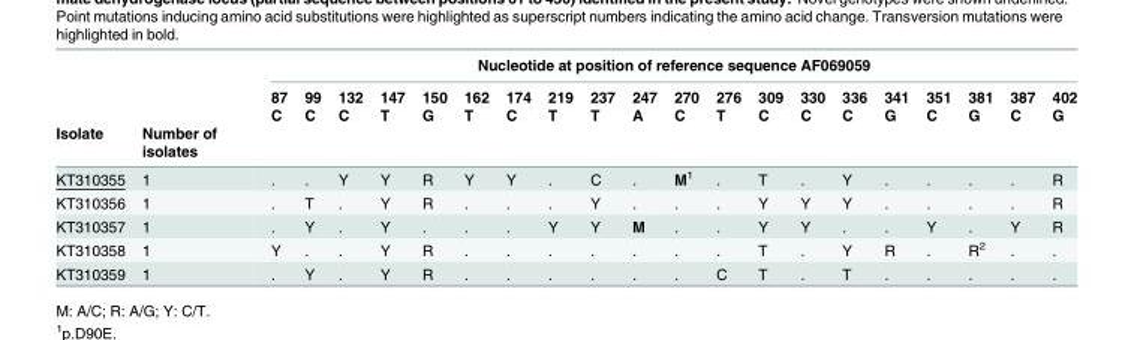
<table><thead><tr><td rowspan="4">Isolate</td><td rowspan="4">Number of isolates</td><td colspan="20">Nucleotide at position of reference sequence AF069059</td></tr><tr><td rowspan="3">87 C</td><td rowspan="3">99 C</td><td rowspan="3">132 C</td><td rowspan="3">147 T</td><td rowspan="3">150 G</td><td rowspan="3">162 T</td><td rowspan="3">174 C</td><td rowspan="3">219 T</td><td rowspan="3">237 T</td><td rowspan="3">247 A</td><td rowspan="3">270 C</td><td rowspan="3">276 T</td><td rowspan="3">309 C</td><td rowspan="3">330 C</td><td rowspan="3">336 C</td><td rowspan="3">341 G</td><td rowspan="3">351 C</td><td rowspan="3">381 G</td><td rowspan="3">387 C</td><td rowspan="3">402 G</td></tr><tr></tr><tr></tr></thead><tbody><tr><td>KT310355</td><td>1</td><td>.</td><td>.</td><td>Y</td><td>Y</td><td>R</td><td>Y</td><td>Y</td><td>.</td><td>C</td><td>.</td><td>M<sup>1</sup></td><td>.</td><td>T</td><td>.</td><td>Y</td><td>.</td><td>.</td><td>.</td><td>.</td><td>R</td></tr><tr><td>KT310356</td><td>1</td><td>.</td><td>T</td><td>.</td><td>Y</td><td>R</td><td>.</td><td>.</td><td>.</td><td>Y</td><td>.</td><td>.</td><td>.</td><td>Y</td><td>Y</td><td>Y</td><td>.</td><td>.</td><td>.</td><td>.</td><td>R</td></tr><tr><td>KT310357</td><td>1</td><td>.</td><td>Y</td><td>.</td><td>Y</td><td>.</td><td>.</td><td>.</td><td>Y</td><td>Y</td><td>M</td><td>.</td><td>.</td><td>Y</td><td>Y</td><td>.</td><td>.</td><td>Y</td><td>.</td><td>Y</td><td>R</td></tr><tr><td>KT310358</td><td>1</td><td>Y</td><td>.</td><td>.</td><td>Y</td><td>R</td><td>.</td><td>.</td><td>.</td><td>.</td><td>.</td><td>.</td><td>.</td><td>T</td><td>.</td><td>Y</td><td>R</td><td>.</td><td>R<sup>2</sup></td><td>.</td><td>.</td></tr><tr><td>KT310359</td><td>1</td><td>.</td><td>Y</td><td>.</td><td>Y</td><td>R</td><td>.</td><td>.</td><td>.</td><td>.</td><td>.</td><td>.</td><td>C</td><td>T</td><td>.</td><td>T</td><td>.</td><td>.</td><td>.</td><td>.</td><td>.</td></tr></tbody></table>